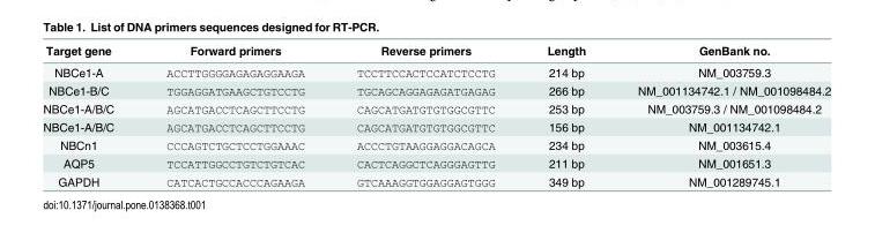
<table><thead><tr><td>Target gene</td><td>Forward primers</td><td>Reverse primers</td><td>Length</td><td>GenBank no.</td></tr></thead><tbody><tr><td>NBCe1-A</td><td>ACCTTGGGGAGAGAGGAAGA</td><td>TCCTTCCACTCCATCTCCTG</td><td>214 bp</td><td>NM_003759.3</td></tr><tr><td>NBCe1-B/C</td><td>TGGAGGATGAAGCTGTCCTG</td><td>TGCAGCAGGAGAGATGAGAG</td><td>266 bp</td><td>NM_001134742.1 / NM_001098484.2</td></tr><tr><td>NBCe1-A/B/C</td><td>AGCATGACCTCAGCTTCCTG</td><td>CAGCATGATGTGTGGCGTTC</td><td>253 bp</td><td>NM_003759.3 / NM_001098484.2</td></tr><tr><td>NBCe1-A/B/C</td><td>AGCATGACCTCAGCTTCCTG</td><td>CAGCATGATGTGTGGCGTTC</td><td>156 bp</td><td>NM_001134742.1</td></tr><tr><td>NBCn1</td><td>CCCAGTCTGCTCCTGGAAAC</td><td>ACCCTGTAAGGAGGACAGCA</td><td>234 bp</td><td>NM_003615.4</td></tr><tr><td>AQP5</td><td>TCCATTGGCCTGTCTGTCAC</td><td>CACTCAGGCTCAGGGAGTTG</td><td>211 bp</td><td>NM_001651.3</td></tr><tr><td>GAPDH</td><td>CATCACTGCCACCCAGAAGA</td><td>GTCAAAGGTGGAGGAGTGGG</td><td>349 bp</td><td>NM_001289745.1</td></tr></tbody></table>